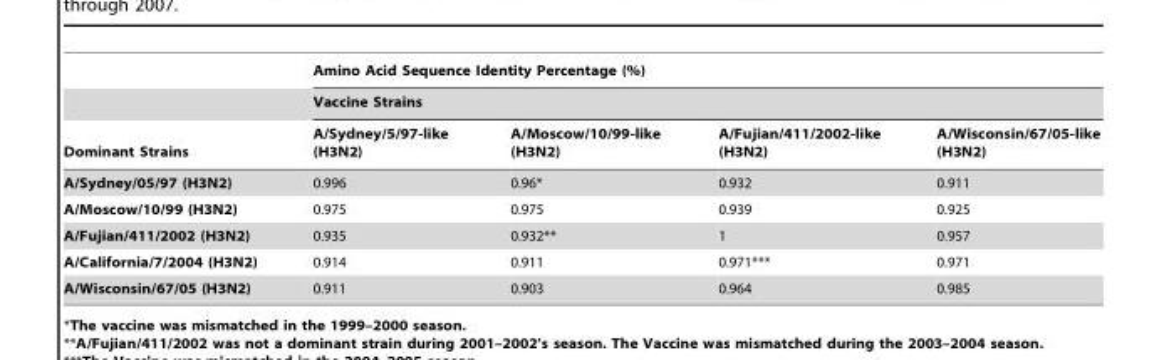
<table><thead><tr><td rowspan="3">Dominant Strains</td><td rowspan="2" colspan="4">Amino Acid Sequence Identity Percentage (%) Vaccine Strains</td></tr><tr></tr><tr><td>A/Sydney/5/97-like (H3N2)</td><td>A/Moscow/10/99-like (H3N2)</td><td>A/Fujian/411/2002-like (H3N2)</td><td>A/Wisconsin/67/05-like (H3N2)</td></tr></thead><tbody><tr><td>A/Sydney/05/97 (H3N2)</td><td>0.996</td><td>0.96*</td><td>0.932</td><td>0.911</td></tr><tr><td>A/Moscow/10/99 (H3N2)</td><td>0.975</td><td>0.975</td><td>0.939</td><td>0.925</td></tr><tr><td>A/Fujian/411/2002 (H3N2)</td><td>0.935</td><td>0.932**</td><td>1</td><td>0.957</td></tr><tr><td>A/California/7/2004 (H3N2)</td><td>0.914</td><td>0.911</td><td>0.971***</td><td>0.971</td></tr><tr><td>A/Wisconsin/67/05 (H3N2)</td><td>0.911</td><td>0.903</td><td>0.964</td><td>0.985</td></tr></tbody></table>